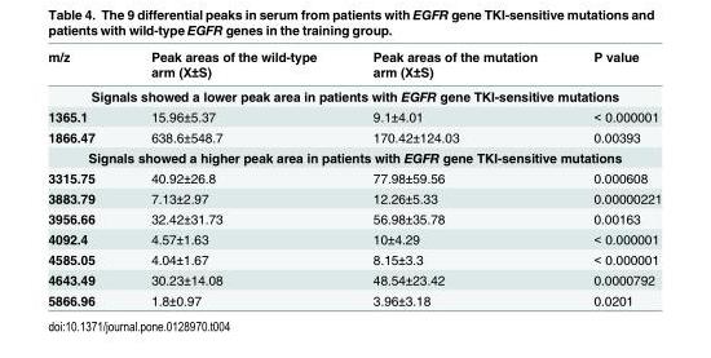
<table><thead><tr><td>m/z</td><td>Peak areas of the wild-type arm (X±S)</td><td>Peak areas of the mutation arm (X±S)</td><td>P value</td></tr></thead><tbody><tr><td colspan="4">Signals showed a lower peak area in patients with EGFR gene TKI-sensitive mutations</td></tr><tr><td>1365.1</td><td>15.96±5.37</td><td>9.1±4.01</td><td>&lt; 0.000001</td></tr><tr><td>1866.47</td><td>638.6±548.7</td><td>170.42±124.03</td><td>0.00393</td></tr><tr><td colspan="4">Signals showed a higher peak area in patients with EGFR gene TKI-sensitive mutations</td></tr><tr><td>3315.75</td><td>40.92±26.8</td><td>77.98±59.56</td><td>0.000608</td></tr><tr><td>3883.79</td><td>7.13±2.97</td><td>12.26±5.33</td><td>0.00000221</td></tr><tr><td>3956.66</td><td>32.42±31.73</td><td>56.98±35.78</td><td>0.00163</td></tr><tr><td>4092.4</td><td>4.57±1.63</td><td>10±4.29</td><td>&lt; 0.000001</td></tr><tr><td>4585.05</td><td>4.04±1.67</td><td>8.15±3.3</td><td>&lt; 0.000001</td></tr><tr><td>4643.49</td><td>30.23±14.08</td><td>48.54±23.42</td><td>0.0000792</td></tr><tr><td>5866.96</td><td>1.8±0.97</td><td>3.96±3.18</td><td>0.0201</td></tr></tbody></table>